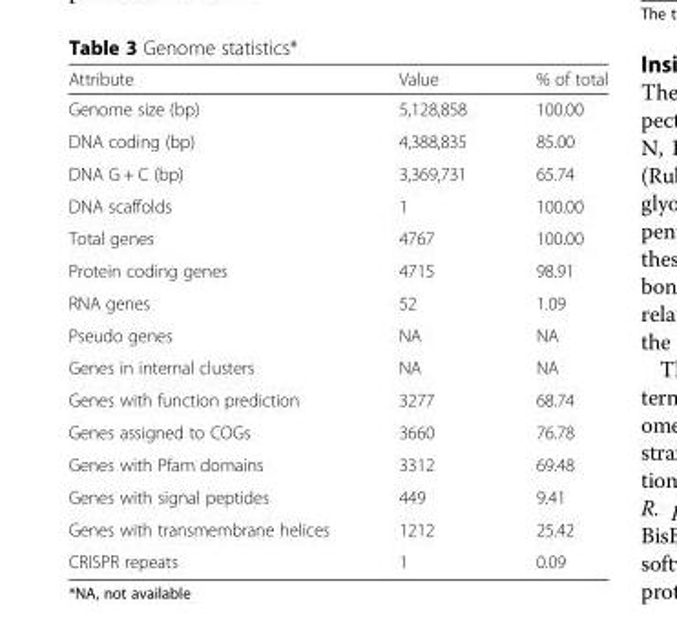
<table><thead><tr><td>Attribute</td><td>Value</td><td>% of total</td></tr></thead><tbody><tr><td>Genome size (bp)</td><td>5,128,858</td><td>100.00</td></tr><tr><td>DNA coding (bp)</td><td>4,388,835</td><td>85.00</td></tr><tr><td>DNA G + C (bp)</td><td>3,369,731</td><td>65.74</td></tr><tr><td>DNA scaffolds</td><td>1</td><td>100.00</td></tr><tr><td>Total genes</td><td>4767</td><td>100.00</td></tr><tr><td>Protein coding genes</td><td>4715</td><td>98.91</td></tr><tr><td>RNA genes</td><td>52</td><td>1.09</td></tr><tr><td>Pseudo genes</td><td>NA</td><td>NA</td></tr><tr><td>Genes in internal clusters</td><td>NA</td><td>NA</td></tr><tr><td>Genes with function prediction</td><td>3277</td><td>68.74</td></tr><tr><td>Genes assigned to COGs</td><td>3660</td><td>76.78</td></tr><tr><td>Genes with Pfam domains</td><td>3312</td><td>69.48</td></tr><tr><td>Genes with signal peptides</td><td>449</td><td>9.41</td></tr><tr><td>Genes with transmembrane helices</td><td>1212</td><td>25.42</td></tr><tr><td>CRISPR repeats</td><td>1</td><td>0.09</td></tr></tbody></table>